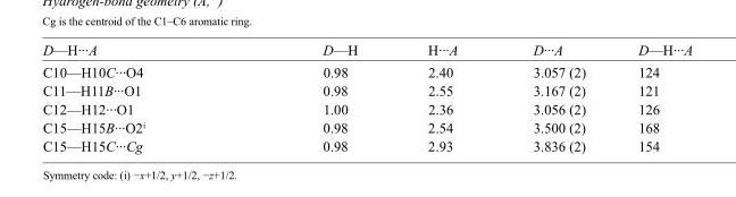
<table><tbody><tr><td>D—H···A</td><td>D—H</td><td>H···A</td><td>D···A</td><td>D—H···A</td></tr><tr><td>C10—H10C···O4</td><td>0.98</td><td>2.40</td><td>3.057 (2)</td><td>124</td></tr><tr><td>C11—H11B···O1</td><td>0.98</td><td>2.55</td><td>3.167 (2)</td><td>121</td></tr><tr><td>C12—H12···O1</td><td>1.00</td><td>2.36</td><td>3.056 (2)</td><td>126</td></tr><tr><td>C15—H15B···O2<sup>i</sup></td><td>0.98</td><td>2.54</td><td>3.500 (2)</td><td>168</td></tr><tr><td>C15—H15C···Cg</td><td>0.98</td><td>2.93</td><td>3.836 (2)</td><td>154</td></tr></tbody></table>